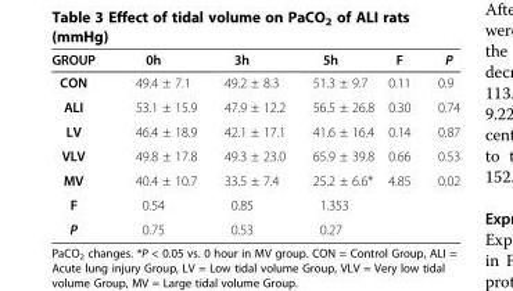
<table><thead><tr><td>GROUP</td><td>0h</td><td>3h</td><td>5h</td><td>F</td><td>P</td></tr></thead><tbody><tr><td>CON</td><td>49.4 ± 7.1</td><td>49.2 ± 8.3</td><td>51.3 ± 9.7</td><td>0.11</td><td>0.9</td></tr><tr><td>ALI</td><td>53.1 ± 15.9</td><td>47.9 ± 12.2</td><td>56.5 ± 26.8</td><td>0.30</td><td>0.74</td></tr><tr><td>LV</td><td>46.4 ± 18.9</td><td>42.1 ± 17.1</td><td>41.6 ± 16.4</td><td>0.14</td><td>0.87</td></tr><tr><td>VLV</td><td>49.8 ± 17.8</td><td>49.3 ± 23.0</td><td>65.9 ± 39.8</td><td>0.66</td><td>0.53</td></tr><tr><td>MV</td><td>40.4 ± 10.7</td><td>33.5 ± 7.4</td><td>25.2 ± 6.6*</td><td>4.85</td><td>0.02</td></tr><tr><td>F</td><td>0.54</td><td>0.85</td><td>1.353</td><td></td><td></td></tr><tr><td>P</td><td>0.75</td><td>0.53</td><td>0.27</td><td></td><td></td></tr></tbody></table>